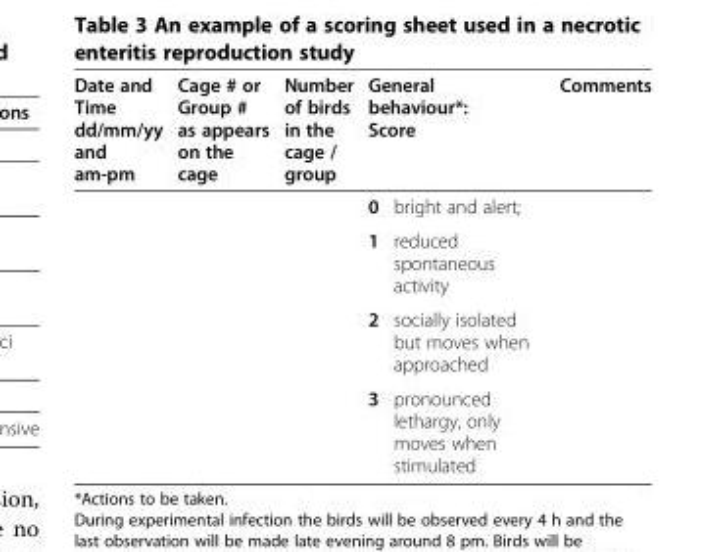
<table><thead><tr><td rowspan="2">Date and Time dd/mm/yy and am-pm</td><td rowspan="2">Cage # or Group # as appears on the cage</td><td rowspan="2">Number of birds in the cage / group</td><td colspan="2">General behaviour*: Score</td><td rowspan="2">Comments</td></tr><tr><td>0</td><td>bright and alert;</td></tr></thead><tbody><tr><td></td><td></td><td></td><td>1</td><td>reduced spontaneous activity</td><td></td></tr><tr><td></td><td></td><td></td><td>2</td><td>socially isolated but moves when approached</td><td></td></tr><tr><td></td><td></td><td></td><td>3</td><td>pronounced lethargy, only moves when stimulated</td><td></td></tr></tbody></table>